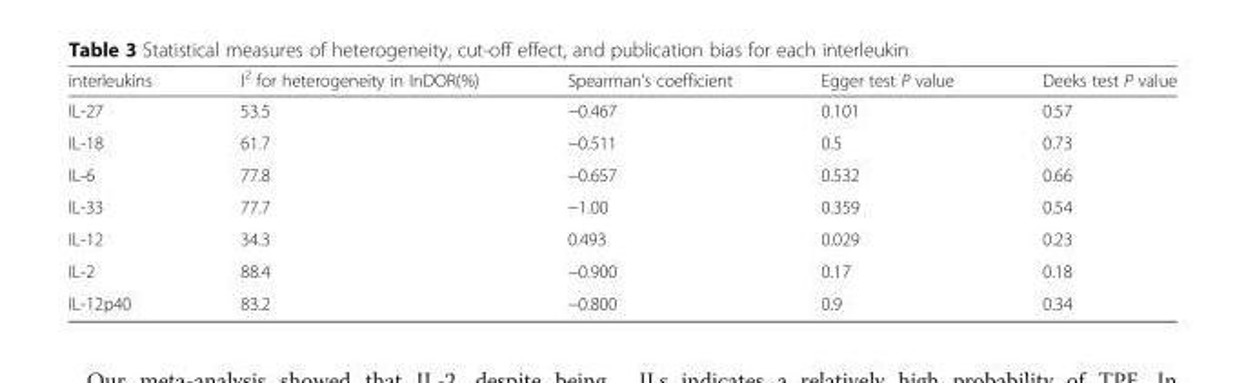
<table><thead><tr><td>interleukins</td><td>I<sup>2</sup> for heterogeneity in InDOR(%)</td><td>Spearman’s coefficient</td><td>Egger test P value</td><td>Deeks test P value</td></tr></thead><tbody><tr><td>IL-27</td><td>53.5</td><td>−0.467</td><td>0.101</td><td>0.57</td></tr><tr><td>IL-18</td><td>61.7</td><td>−0.511</td><td>0.5</td><td>0.73</td></tr><tr><td>IL-6</td><td>77.8</td><td>−0.657</td><td>0.532</td><td>0.66</td></tr><tr><td>IL-33</td><td>77.7</td><td>−1.00</td><td>0.359</td><td>0.54</td></tr><tr><td>IL-12</td><td>34.3</td><td>0.493</td><td>0.029</td><td>0.23</td></tr><tr><td>IL-2</td><td>88.4</td><td>−0.900</td><td>0.17</td><td>0.18</td></tr><tr><td>IL-12p40</td><td>83.2</td><td>−0.800</td><td>0.9</td><td>0.34</td></tr></tbody></table>